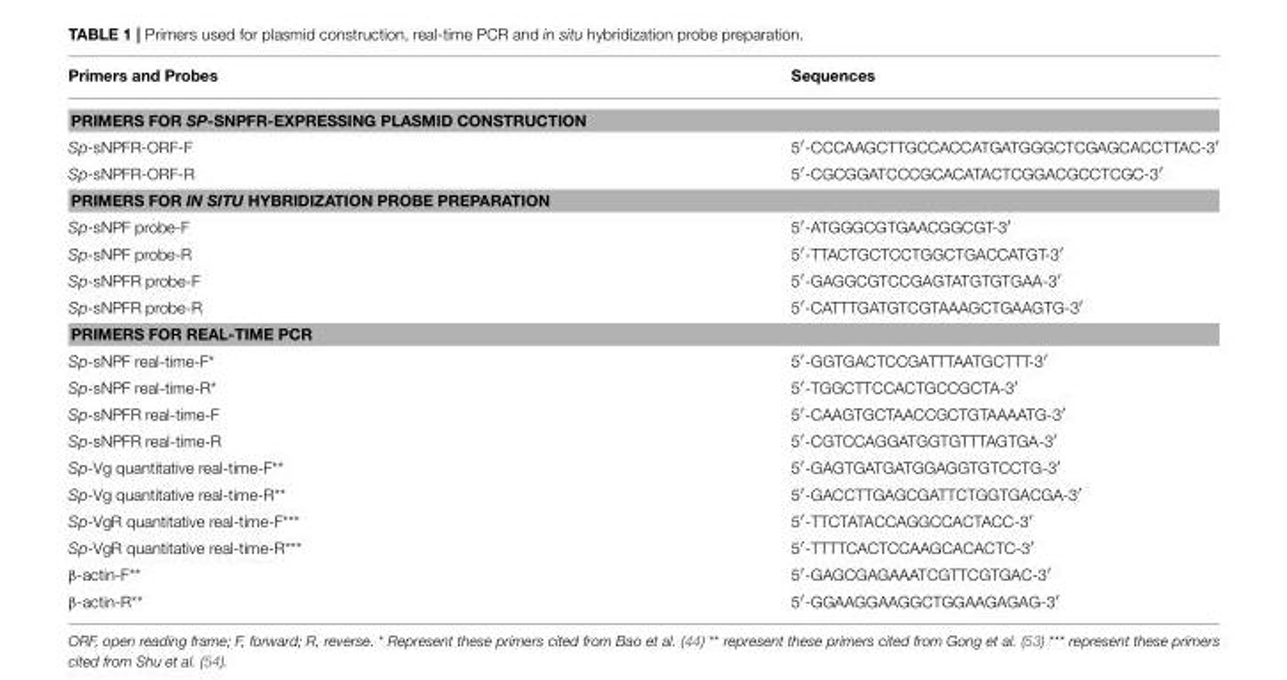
<table><thead><tr><td>Primers and Probes</td><td>Sequences</td></tr></thead><tbody><tr><td colspan="2">PRIMERS FOR SP-SNPFR-EXPRESSING PLASMID CONSTRUCTION</td></tr><tr><td>Sp-sNPFR-ORF-F</td><td>5′-CCCAAGCTTGCCACCATGATGGGCTCGAGCACCTTAC-3′</td></tr><tr><td>Sp-sNPFR-ORF-R</td><td>5′-CGCGGATCCCGCACATACTCGGACGCCTCGC-3′</td></tr><tr><td colspan="2">PRIMERS FOR IN SITU HYBRIDIZATION PROBE PREPARATION</td></tr><tr><td>Sp-sNPF probe-F</td><td>5′-ATGGGCGTGAACGGCGT-3′</td></tr><tr><td>Sp-sNPF probe-R</td><td>5′-TTACTGCTCCTGGCTGACCATGT-3′</td></tr><tr><td>Sp-sNPFR probe-F</td><td>5′-GAGGCGTCCGAGTATGTGTGAA-3′</td></tr><tr><td>Sp-sNPFR probe-R</td><td>5′-CATTTGATGTCGTAAAGCTGAAGTG-3′</td></tr><tr><td colspan="2">PRIMERS FOR REAL-TIME PCR</td></tr><tr><td>Sp-sNPF real-time-F*</td><td>5′-GGTGACTCCGATTTAATGCTTT-3′</td></tr><tr><td>Sp-sNPF real-time-R*</td><td>5′-TGGCTTCCACTGCCGCTA-3′</td></tr><tr><td>Sp-sNPFR real-time-F</td><td>5′-CAAGTGCTAACCGCTGTAAAATG-3′</td></tr><tr><td>Sp-sNPFR real-time-R</td><td>5′-CGTCCAGGATGGTGTTTAGTGA-3′</td></tr><tr><td>Sp-Vg quantitative real-time-F**</td><td>5′-GAGTGATGATGGAGGTGTCCTG-3′</td></tr><tr><td>Sp-Vg quantitative real-time-R**</td><td>5′-GACCTTGAGCGATTCTGGTGACGA-3′</td></tr><tr><td>Sp-VgR quantitative real-time-F***</td><td>5′-TTCTATACCAGGCCACTACC-3′</td></tr><tr><td>Sp-VgR quantitative real-time-R***</td><td>5′-TTTTCACTCCAAGCACACTC-3′</td></tr><tr><td>β-actin-F**</td><td>5′-GAGCGAGAAATCGTTCGTGAC-3′</td></tr><tr><td>β-actin-R**</td><td>5′-GGAAGGAAGGCTGGAAGAGAG-3′</td></tr></tbody></table>